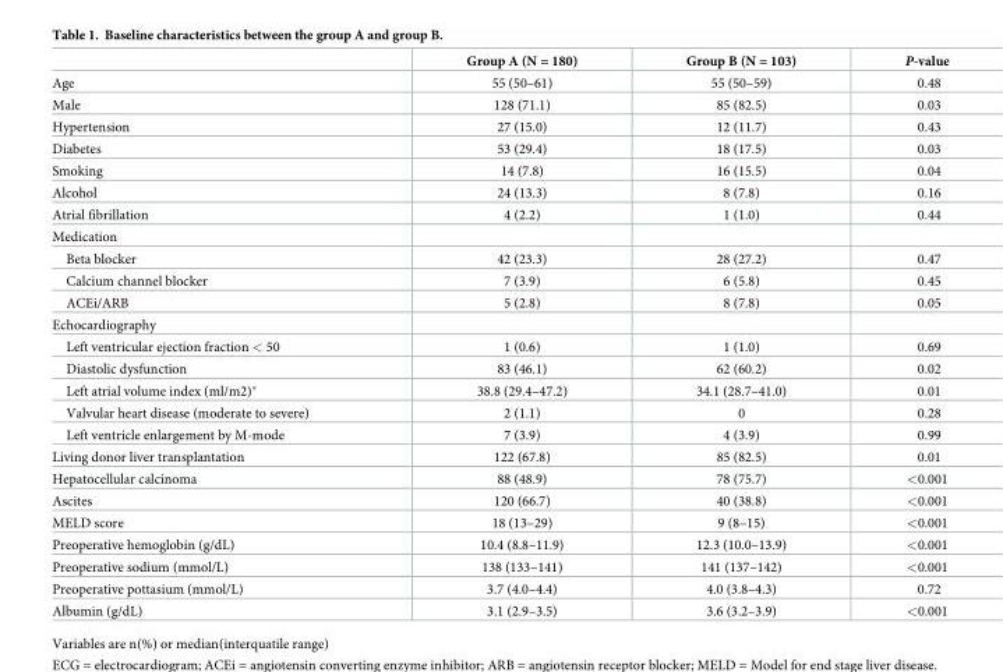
<table><thead><tr><td></td><td>Group A (N = 180)</td><td>Group B (N = 103)</td><td>P-value</td></tr></thead><tbody><tr><td>Age</td><td>55 (50–61)</td><td>55 (50–59)</td><td>0.48</td></tr><tr><td>Male</td><td>128 (71.1)</td><td>85 (82.5)</td><td>0.03</td></tr><tr><td>Hypertension</td><td>27 (15.0)</td><td>12 (11.7)</td><td>0.43</td></tr><tr><td>Diabetes</td><td>53 (29.4)</td><td>18 (17.5)</td><td>0.03</td></tr><tr><td>Smoking</td><td>14 (7.8)</td><td>16 (15.5)</td><td>0.04</td></tr><tr><td>Alcohol</td><td>24 (13.3)</td><td>8 (7.8)</td><td>0.16</td></tr><tr><td>Atrial fibrillation</td><td>4 (2.2)</td><td>1 (1.0)</td><td>0.44</td></tr><tr><td colspan="4">Medication</td></tr><tr><td>Beta blocker</td><td>42 (23.3)</td><td>28 (27.2)</td><td>0.47</td></tr><tr><td>Calcium channel blocker</td><td>7 (3.9)</td><td>6 (5.8)</td><td>0.45</td></tr><tr><td>ACEi/ARB</td><td>5 (2.8)</td><td>8 (7.8)</td><td>0.05</td></tr><tr><td colspan="4">Echocardiography</td></tr><tr><td>Left ventricular ejection fraction &lt; 50</td><td>1 (0.6)</td><td>1 (1.0)</td><td>0.69</td></tr><tr><td>Diastolic dysfunction</td><td>83 (46.1)</td><td>62 (60.2)</td><td>0.02</td></tr><tr><td>Left atrial volume index (ml/m2)*</td><td>38.8 (29.4–47.2)</td><td>34.1 (28.7–41.0)</td><td>0.01</td></tr><tr><td>Valvular heart disease (moderate to severe)</td><td>2 (1.1)</td><td>0</td><td>0.28</td></tr><tr><td>Left ventricle enlargement by M-mode</td><td>7 (3.9)</td><td>4 (3.9)</td><td>0.99</td></tr><tr><td>Living donor liver transplantation</td><td>122 (67.8)</td><td>85 (82.5)</td><td>0.01</td></tr><tr><td>Hepatocellular calcinoma</td><td>88 (48.9)</td><td>78 (75.7)</td><td>&lt;0.001</td></tr><tr><td>Ascites</td><td>120 (66.7)</td><td>40 (38.8)</td><td>&lt;0.001</td></tr><tr><td>MELD score</td><td>18 (13–29)</td><td>9 (8–15)</td><td>&lt;0.001</td></tr><tr><td>Preoperative hemoglobin (g/dL)</td><td>10.4 (8.8–11.9)</td><td>12.3 (10.0–13.9)</td><td>&lt;0.001</td></tr><tr><td>Preoperative sodium (mmol/L)</td><td>138 (133–141)</td><td>141 (137–142)</td><td>&lt;0.001</td></tr><tr><td>Preoperative pottasium (mmol/L)</td><td>3.7 (4.0–4.4)</td><td>4.0 (3.8–4.3)</td><td>0.72</td></tr><tr><td>Albumin (g/dL)</td><td>3.1 (2.9–3.5)</td><td>3.6 (3.2–3.9)</td><td>&lt;0.001</td></tr></tbody></table>